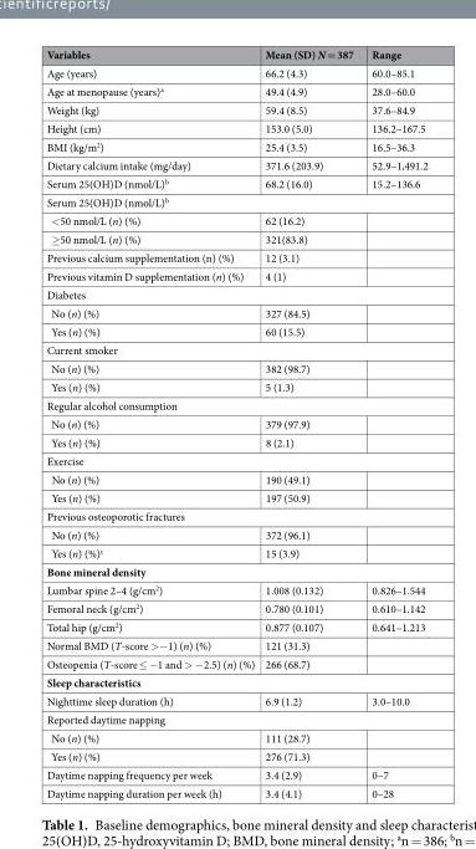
<table><thead><tr><td>Variables</td><td>Mean (SD) N = 387</td><td>Range</td></tr></thead><tbody><tr><td>Age (years)</td><td>66.2 (4.3)</td><td>60.0–85.1</td></tr><tr><td>Age at menopause (years)<sup>a</sup></td><td>49.4 (4.9)</td><td>28.0–60.0</td></tr><tr><td>Weight (kg)</td><td>59.4 (8.5)</td><td>37.6–84.9</td></tr><tr><td>Height (cm)</td><td>153.0 (5.0)</td><td>136.2–167.5</td></tr><tr><td>BMI (kg/m<sup>2</sup>)</td><td>25.4 (3.5)</td><td>16.5–36.3</td></tr><tr><td>Dietary calcium intake (mg/day)</td><td>371.6 (203.9)</td><td>52.9–1,491.2</td></tr><tr><td>Serum 25(OH)D (nmol/L)<sup>b</sup></td><td>68.2 (16.0)</td><td>15.2–136.6</td></tr><tr><td colspan="3">Serum 25(OH)D (nmol/L)<sup>b</sup></td></tr><tr><td>&lt;50 nmol/L (n) (%)</td><td>62 (16.2)</td><td></td></tr><tr><td>≥50 nmol/L (n) (%)</td><td>321(83.8)</td><td></td></tr><tr><td>Previous calcium supplementation (n) (%)</td><td>12 (3.1)</td><td></td></tr><tr><td>Previous vitamin D supplementation (n) (%)</td><td>4 (1)</td><td></td></tr><tr><td colspan="3">Diabetes</td></tr><tr><td>No (n) (%)</td><td>327 (84.5)</td><td></td></tr><tr><td>Yes (n) (%)</td><td>60 (15.5)</td><td></td></tr><tr><td colspan="3">Current smoker</td></tr><tr><td>No (n) (%)</td><td>382 (98.7)</td><td></td></tr><tr><td>Yes (n) (%)</td><td>5 (1.3)</td><td></td></tr><tr><td colspan="3">Regular alcohol consumption</td></tr><tr><td>No (n) (%)</td><td>379 (97.9)</td><td></td></tr><tr><td>Yes (n) (%)</td><td>8 (2.1)</td><td></td></tr><tr><td colspan="3">Exercise</td></tr><tr><td>No (n) (%)</td><td>190 (49.1)</td><td></td></tr><tr><td>Yes (n) (%)</td><td>197 (50.9)</td><td></td></tr><tr><td colspan="3">Previous osteoporotic fractures</td></tr><tr><td>No (n) (%)</td><td>372 (96.1)</td><td></td></tr><tr><td>Yes (n) (%)<sup>c</sup></td><td>15 (3.9)</td><td></td></tr><tr><td colspan="3">Bone mineral density</td></tr><tr><td>Lumbar spine 2–4 (g/cm<sup>2</sup>)</td><td>1.008 (0.132)</td><td>0.826–1.544</td></tr><tr><td>Femoral neck (g/cm<sup>2</sup>)</td><td>0.780 (0.101)</td><td>0.610–1.142</td></tr><tr><td>Total hip (g/cm<sup>2</sup>)</td><td>0.877 (0.107)</td><td>0.641–1.213</td></tr><tr><td>Normal BMD (T-score &gt;−1) (n) (%)</td><td>121 (31.3)</td><td></td></tr><tr><td>Osteopenia (T-score ≤ −1 and &gt; −2.5) (n) (%)</td><td>266 (68.7)</td><td></td></tr><tr><td colspan="3">Sleep characteristics</td></tr><tr><td>Nighttime sleep duration (h)</td><td>6.9 (1.2)</td><td>3.0–10.0</td></tr><tr><td colspan="3">Reported daytime napping</td></tr><tr><td>No (n) (%)</td><td>111 (28.7)</td><td></td></tr><tr><td>Yes (n) (%)</td><td>276 (71.3)</td><td></td></tr><tr><td>Daytime napping frequency per week</td><td>3.4 (2.9)</td><td>0–7</td></tr><tr><td>Daytime napping duration per week (h)</td><td>3.4 (4.1)</td><td>0–28</td></tr></tbody></table>